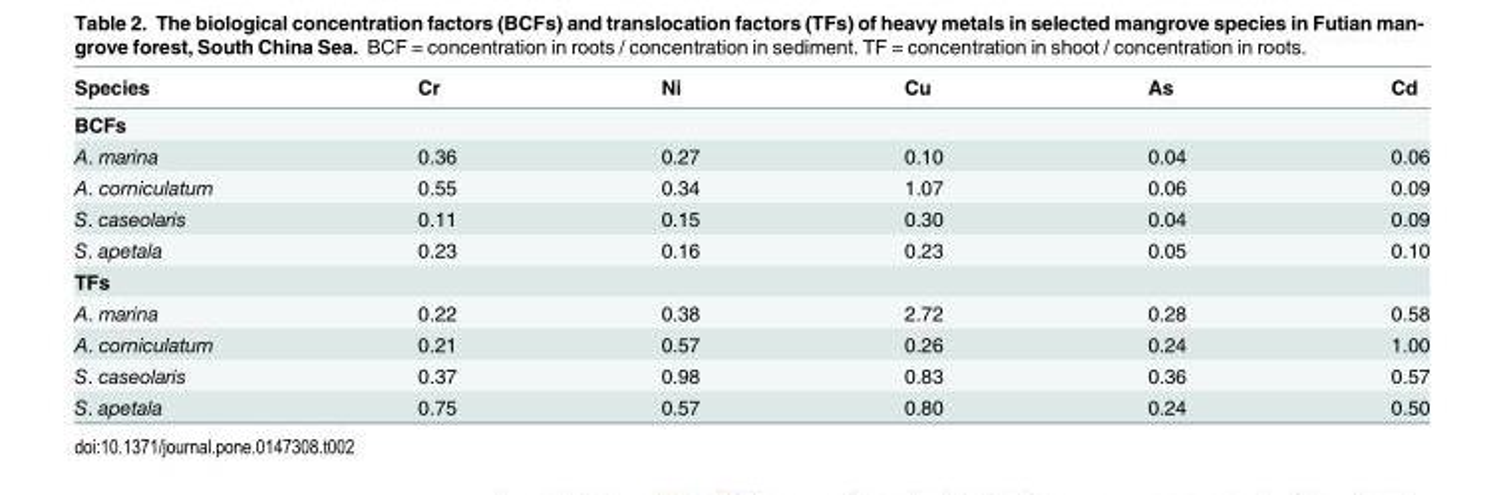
<table><thead><tr><td>Species</td><td>Cr</td><td>Ni</td><td>Cu</td><td>As</td><td>Cd</td></tr></thead><tbody><tr><td colspan="6">BCFs</td></tr><tr><td>A. marina</td><td>0.36</td><td>0.27</td><td>0.10</td><td>0.04</td><td>0.06</td></tr><tr><td>A. corniculatum</td><td>0.55</td><td>0.34</td><td>1.07</td><td>0.06</td><td>0.09</td></tr><tr><td>S. caseolaris</td><td>0.11</td><td>0.15</td><td>0.30</td><td>0.04</td><td>0.09</td></tr><tr><td>S. apetala</td><td>0.23</td><td>0.16</td><td>0.23</td><td>0.05</td><td>0.10</td></tr><tr><td colspan="6">TFs</td></tr><tr><td>A. marina</td><td>0.22</td><td>0.38</td><td>2.72</td><td>0.28</td><td>0.58</td></tr><tr><td>A. corniculatum</td><td>0.21</td><td>0.57</td><td>0.26</td><td>0.24</td><td>1.00</td></tr><tr><td>S. caseolaris</td><td>0.37</td><td>0.98</td><td>0.83</td><td>0.36</td><td>0.57</td></tr><tr><td>S. apetala</td><td>0.75</td><td>0.57</td><td>0.80</td><td>0.24</td><td>0.50</td></tr></tbody></table>